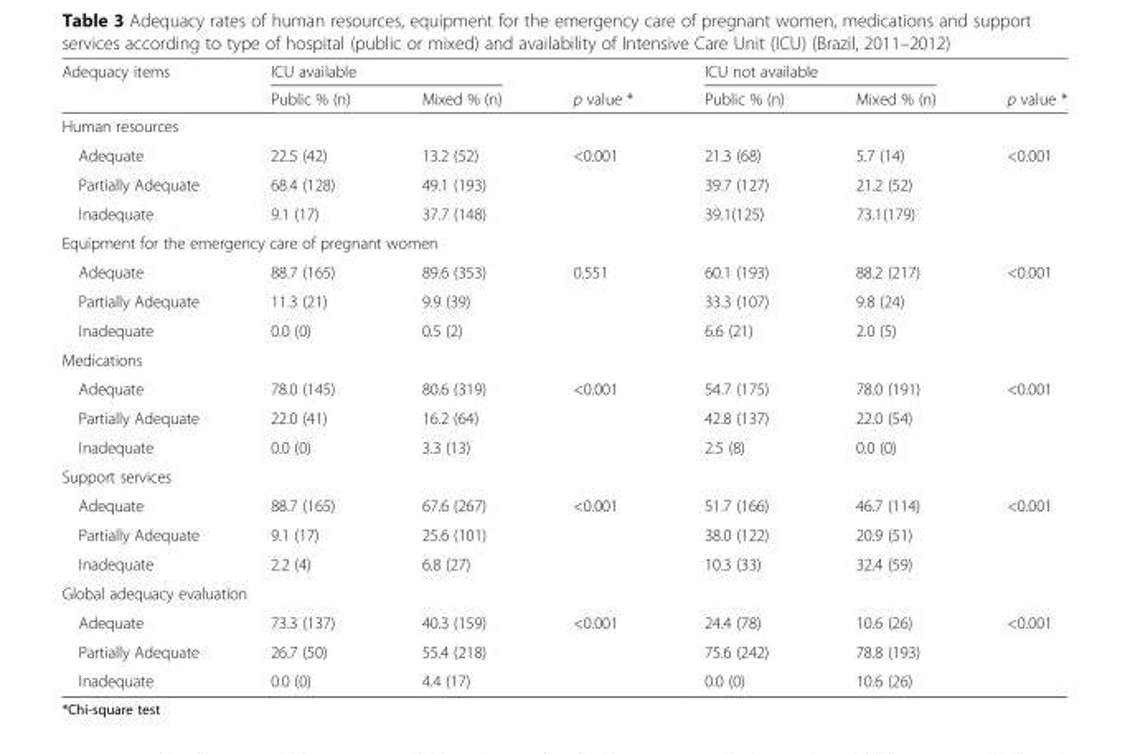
<table><thead><tr><td rowspan="2">Adequacy items</td><td colspan="2">ICU available</td><td rowspan="2">p value *</td><td colspan="2">ICU not available</td><td rowspan="2">p value *</td></tr><tr><td>Public % (n)</td><td>Mixed % (n)</td><td>Public % (n)</td><td>Mixed % (n)</td></tr></thead><tbody><tr><td colspan="7">Human resources</td></tr><tr><td>Adequate</td><td>22.5 (42)</td><td>13.2 (52)</td><td>&lt;0.001</td><td>21.3 (68)</td><td>5.7 (14)</td><td>&lt;0.001</td></tr><tr><td>Partially Adequate</td><td>68.4 (128)</td><td>49.1 (193)</td><td></td><td>39.7 (127)</td><td>21.2 (52)</td><td></td></tr><tr><td>Inadequate</td><td>9.1 (17)</td><td>37.7 (148)</td><td></td><td>39.1(125)</td><td>73.1(179)</td><td></td></tr><tr><td colspan="7">Equipment for the emergency care of pregnant women</td></tr><tr><td>Adequate</td><td>88.7 (165)</td><td>89.6 (353)</td><td>0.551</td><td>60.1 (193)</td><td>88.2 (217)</td><td>&lt;0.001</td></tr><tr><td>Partially Adequate</td><td>11.3 (21)</td><td>9.9 (39)</td><td></td><td>33.3 (107)</td><td>9.8 (24)</td><td></td></tr><tr><td>Inadequate</td><td>0.0 (0)</td><td>0.5 (2)</td><td></td><td>6.6 (21)</td><td>2.0 (5)</td><td></td></tr><tr><td colspan="7">Medications</td></tr><tr><td>Adequate</td><td>78.0 (145)</td><td>80.6 (319)</td><td>&lt;0.001</td><td>54.7 (175)</td><td>78.0 (191)</td><td>&lt;0.001</td></tr><tr><td>Partially Adequate</td><td>22.0 (41)</td><td>16.2 (64)</td><td></td><td>42.8 (137)</td><td>22.0 (54)</td><td></td></tr><tr><td>Inadequate</td><td>0.0 (0)</td><td>3.3 (13)</td><td></td><td>2.5 (8)</td><td>0.0 (0)</td><td></td></tr><tr><td colspan="7">Support services</td></tr><tr><td>Adequate</td><td>88.7 (165)</td><td>67.6 (267)</td><td>&lt;0.001</td><td>51.7 (166)</td><td>46.7 (114)</td><td>&lt;0.001</td></tr><tr><td>Partially Adequate</td><td>9.1 (17)</td><td>25.6 (101)</td><td></td><td>38.0 (122)</td><td>20.9 (51)</td><td></td></tr><tr><td>Inadequate</td><td>2.2 (4)</td><td>6.8 (27)</td><td></td><td>10.3 (33)</td><td>32.4 (59)</td><td></td></tr><tr><td colspan="7">Global adequacy evaluation</td></tr><tr><td>Adequate</td><td>73.3 (137)</td><td>40.3 (159)</td><td>&lt;0.001</td><td>24.4 (78)</td><td>10.6 (26)</td><td>&lt;0.001</td></tr><tr><td>Partially Adequate</td><td>26.7 (50)</td><td>55.4 (218)</td><td></td><td>75.6 (242)</td><td>78.8 (193)</td><td></td></tr><tr><td>Inadequate</td><td>0.0 (0)</td><td>4.4 (17)</td><td></td><td>0.0 (0)</td><td>10.6 (26)</td><td></td></tr></tbody></table>